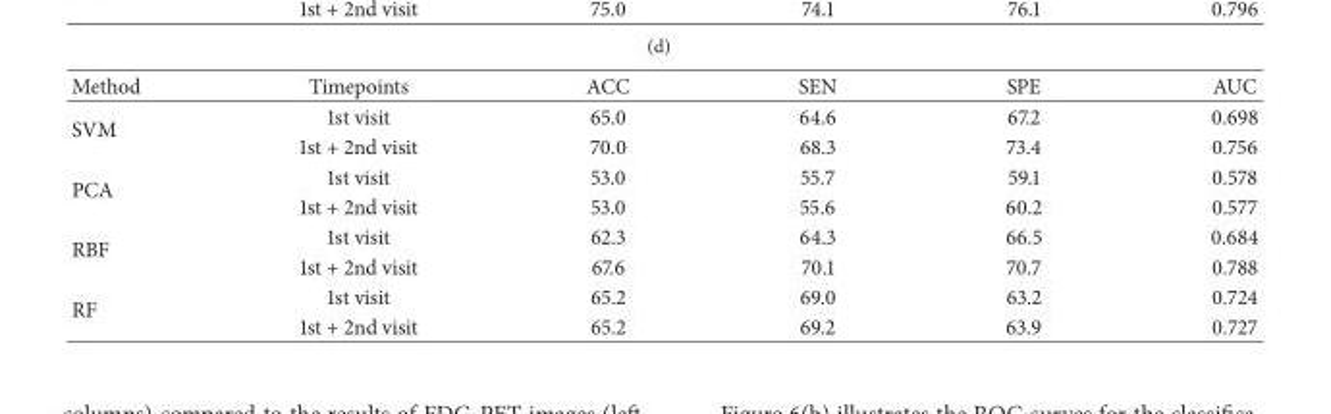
<table><thead><tr><td>Method</td><td>Timepoints</td><td>ACC</td><td>SEN</td><td>SPE</td><td>AUC</td></tr></thead><tbody><tr><td rowspan="2">SVM</td><td>1st visit</td><td>65.0</td><td>64.6</td><td>67.2</td><td>0.698</td></tr><tr><td>1st + 2nd visit</td><td>70.0</td><td>68.3</td><td>73.4</td><td>0.756</td></tr><tr><td rowspan="2">PCA</td><td>1st visit</td><td>53.0</td><td>55.7</td><td>59.1</td><td>0.578</td></tr><tr><td>1st + 2nd visit</td><td>53.0</td><td>55.6</td><td>60.2</td><td>0.577</td></tr><tr><td rowspan="2">RBF</td><td>1st visit</td><td>62.3</td><td>64.3</td><td>66.5</td><td>0.684</td></tr><tr><td>1st + 2nd visit</td><td>67.6</td><td>70.1</td><td>70.7</td><td>0.788</td></tr><tr><td rowspan="2">RF</td><td>1st visit</td><td>65.2</td><td>69.0</td><td>63.2</td><td>0.724</td></tr><tr><td>1st + 2nd visit</td><td>65.2</td><td>69.2</td><td>63.9</td><td>0.727</td></tr></tbody></table>